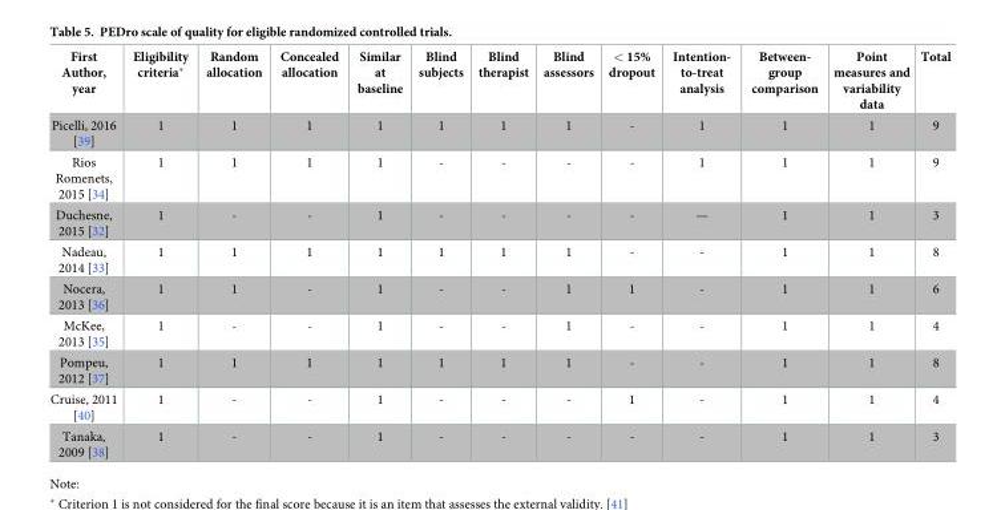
<table><thead><tr><td>First Author, year</td><td>Eligibility criteria*</td><td>Random allocation</td><td>Concealed allocation</td><td>Similar at baseline</td><td>Blind subjects</td><td>Blind therapist</td><td>Blind assessors</td><td>&lt; 15% dropout</td><td>Intention- to-treat analysis</td><td>Between- group comparison</td><td>Point measures and variability data</td><td>Total</td></tr></thead><tbody><tr><td>Picelli, 2016 [39]</td><td>1</td><td>1</td><td>1</td><td>1</td><td>1</td><td>1</td><td>1</td><td>-</td><td>1</td><td>1</td><td>1</td><td>9</td></tr><tr><td>Rios Romenets, 2015 [34]</td><td>1</td><td>1</td><td>1</td><td>1</td><td>-</td><td>-</td><td>-</td><td>-</td><td>1</td><td>1</td><td>1</td><td>9</td></tr><tr><td>Duchesne, 2015 [32]</td><td>1</td><td>-</td><td>-</td><td>1</td><td>-</td><td>-</td><td>-</td><td>-</td><td>—</td><td>1</td><td>1</td><td>3</td></tr><tr><td>Nadeau, 2014 [33]</td><td>1</td><td>1</td><td>1</td><td>1</td><td>1</td><td>1</td><td>1</td><td>-</td><td>-</td><td>1</td><td>1</td><td>8</td></tr><tr><td>Nocera, 2013 [36]</td><td>1</td><td>1</td><td>-</td><td>1</td><td>-</td><td>-</td><td>1</td><td>1</td><td>-</td><td>1</td><td>1</td><td>6</td></tr><tr><td>McKee, 2013 [35]</td><td>1</td><td>-</td><td>-</td><td>1</td><td>-</td><td>-</td><td>1</td><td>-</td><td>-</td><td>1</td><td>1</td><td>4</td></tr><tr><td>Pompeu, 2012 [37]</td><td>1</td><td>1</td><td>1</td><td>1</td><td>1</td><td>1</td><td>1</td><td>-</td><td>-</td><td>1</td><td>1</td><td>8</td></tr><tr><td>Cruise, 2011 [40]</td><td>1</td><td>-</td><td>-</td><td>1</td><td>-</td><td>-</td><td>-</td><td>1</td><td>-</td><td>1</td><td>1</td><td>4</td></tr><tr><td>Tanaka, 2009 [38]</td><td>1</td><td>-</td><td>-</td><td>1</td><td>-</td><td>-</td><td>-</td><td>-</td><td>-</td><td>1</td><td>1</td><td>3</td></tr></tbody></table>